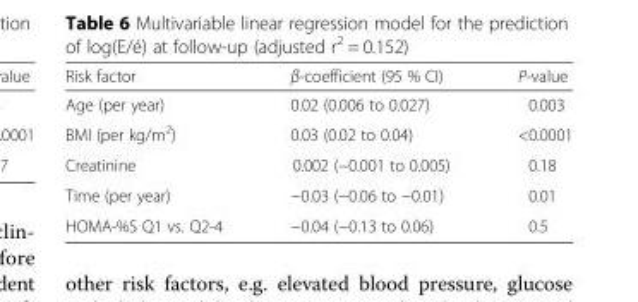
<table><thead><tr><td>Risk factor</td><td>β-coefficient (95 % CI)</td><td>P-value</td></tr></thead><tbody><tr><td>Age (per year)</td><td>0.02 (0.006 to 0.027)</td><td>0.003</td></tr><tr><td>BMI (per kg/m<sup>2</sup>)</td><td>0.03 (0.02 to 0.04)</td><td>&lt;0.0001</td></tr><tr><td>Creatinine</td><td>0.002 (−0.001 to 0.005)</td><td>0.18</td></tr><tr><td>Time (per year)</td><td>−0.03 (−0.06 to −0.01)</td><td>0.01</td></tr><tr><td>HOMA-%S Q1 vs. Q2-4</td><td>−0.04 (−0.13 to 0.06)</td><td>0.5</td></tr></tbody></table>